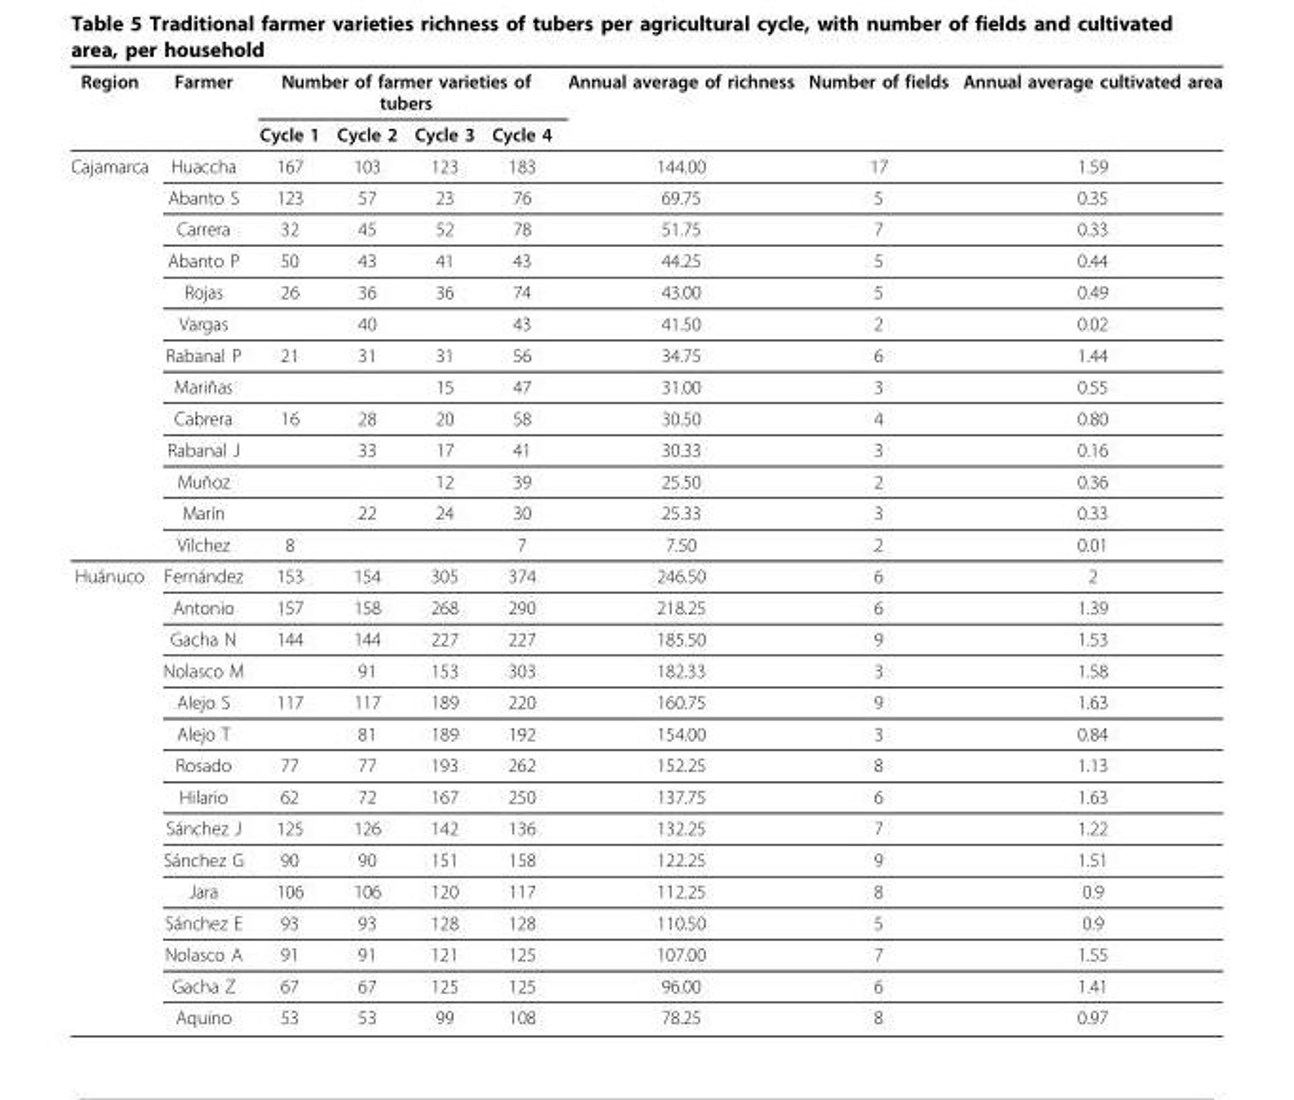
<table><thead><tr><td rowspan="2">Region</td><td rowspan="2">Farmer</td><td colspan="4">Number of farmer varieties of tubers</td><td rowspan="2">Annual average of richness</td><td rowspan="2">Number of fields</td><td rowspan="2">Annual average cultivated area</td></tr><tr><td>Cycle 1</td><td>Cycle 2</td><td>Cycle 3</td><td>Cycle 4</td></tr></thead><tbody><tr><td rowspan="13">Cajamarca</td><td>Huaccha</td><td>167</td><td>103</td><td>123</td><td>183</td><td>144.00</td><td>17</td><td>1.59</td></tr><tr><td>Abanto S</td><td>123</td><td>57</td><td>23</td><td>76</td><td>69.75</td><td>5</td><td>0.35</td></tr><tr><td>Carrera</td><td>32</td><td>45</td><td>52</td><td>78</td><td>51.75</td><td>7</td><td>0.33</td></tr><tr><td>Abanto P</td><td>50</td><td>43</td><td>41</td><td>43</td><td>44.25</td><td>5</td><td>0.44</td></tr><tr><td>Rojas</td><td>26</td><td>36</td><td>36</td><td>74</td><td>43.00</td><td>5</td><td>0.49</td></tr><tr><td>Vargas</td><td></td><td>40</td><td></td><td>43</td><td>41.50</td><td>2</td><td>0.02</td></tr><tr><td>Rabanal P</td><td>21</td><td>31</td><td>31</td><td>56</td><td>34.75</td><td>6</td><td>1.44</td></tr><tr><td>Mariñas</td><td></td><td></td><td>15</td><td>47</td><td>31.00</td><td>3</td><td>0.55</td></tr><tr><td>Cabrera</td><td>16</td><td>28</td><td>20</td><td>58</td><td>30.50</td><td>4</td><td>0.80</td></tr><tr><td>Rabanal J</td><td></td><td>33</td><td>17</td><td>41</td><td>30.33</td><td>3</td><td>0.16</td></tr><tr><td>Muñoz</td><td></td><td></td><td>12</td><td>39</td><td>25.50</td><td>2</td><td>0.36</td></tr><tr><td>Marín</td><td></td><td>22</td><td>24</td><td>30</td><td>25.33</td><td>3</td><td>0.33</td></tr><tr><td>Vilchez</td><td>8</td><td></td><td></td><td>7</td><td>7.50</td><td>2</td><td>0.01</td></tr><tr><td rowspan="15">Huánuco</td><td>Fernández</td><td>153</td><td>154</td><td>305</td><td>374</td><td>246.50</td><td>6</td><td>2</td></tr><tr><td>Antonio</td><td>157</td><td>158</td><td>268</td><td>290</td><td>218.25</td><td>6</td><td>1.39</td></tr><tr><td>Gacha N</td><td>144</td><td>144</td><td>227</td><td>227</td><td>185.50</td><td>9</td><td>1.53</td></tr><tr><td>Nolasco M</td><td></td><td>91</td><td>153</td><td>303</td><td>182.33</td><td>3</td><td>1.58</td></tr><tr><td>Alejo S</td><td>117</td><td>117</td><td>189</td><td>220</td><td>160.75</td><td>9</td><td>1.63</td></tr><tr><td>Alejo T</td><td></td><td>81</td><td>189</td><td>192</td><td>154.00</td><td>3</td><td>0.84</td></tr><tr><td>Rosado</td><td>77</td><td>77</td><td>193</td><td>262</td><td>152.25</td><td>8</td><td>1.13</td></tr><tr><td>Hilario</td><td>62</td><td>72</td><td>167</td><td>250</td><td>137.75</td><td>6</td><td>1.63</td></tr><tr><td>Sánchez J</td><td>125</td><td>126</td><td>142</td><td>136</td><td>132.25</td><td>7</td><td>1.22</td></tr><tr><td>Sánchez G</td><td>90</td><td>90</td><td>151</td><td>158</td><td>122.25</td><td>9</td><td>1.51</td></tr><tr><td>Jara</td><td>106</td><td>106</td><td>120</td><td>117</td><td>112.25</td><td>8</td><td>0.9</td></tr><tr><td>Sánchez E</td><td>93</td><td>93</td><td>128</td><td>128</td><td>110.50</td><td>5</td><td>0.9</td></tr><tr><td>Nolasco A</td><td>91</td><td>91</td><td>121</td><td>125</td><td>107.00</td><td>7</td><td>1.55</td></tr><tr><td>Gacha Z</td><td>67</td><td>67</td><td>125</td><td>125</td><td>96.00</td><td>6</td><td>1.41</td></tr><tr><td>Aquino</td><td>53</td><td>53</td><td>99</td><td>108</td><td>78.25</td><td>8</td><td>0.97</td></tr></tbody></table>